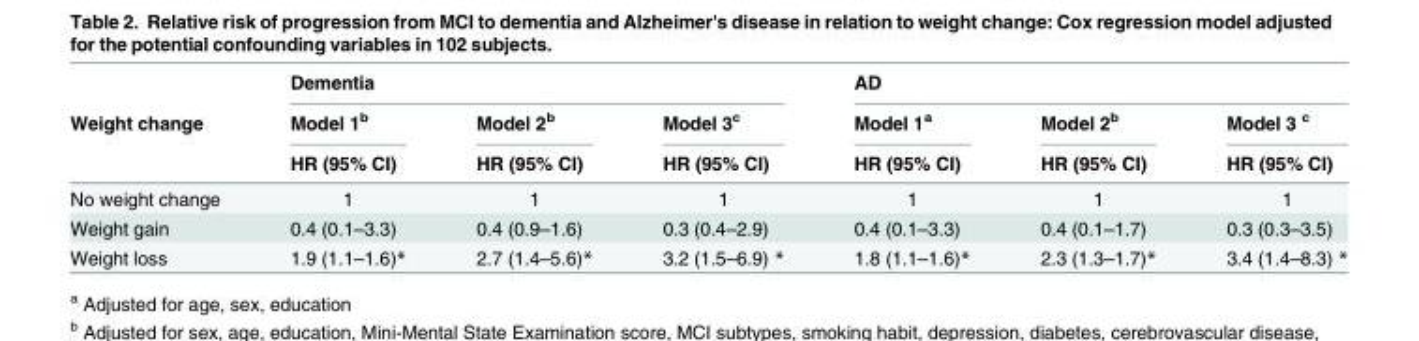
<table><thead><tr><td rowspan="3">Weight change</td><td colspan="3">Dementia</td><td colspan="3">AD</td></tr><tr><td rowspan="2">Model 1<sup>b</sup> HR (95% CI)</td><td rowspan="2">Model 2<sup>b</sup> HR (95% CI)</td><td rowspan="2">Model 3<sup>c</sup> HR (95% CI)</td><td rowspan="2">Model 1<sup>a</sup> HR (95% CI)</td><td rowspan="2">Model 2<sup>b</sup> HR (95% CI)</td><td rowspan="2">Model 3 <sup>c</sup> HR (95% CI)</td></tr><tr></tr></thead><tbody><tr><td>No weight change</td><td>1</td><td>1</td><td>1</td><td>1</td><td>1</td><td>1</td></tr><tr><td>Weight gain</td><td>0.4 (0.1–3.3)</td><td>0.4 (0.9–1.6)</td><td>0.3 (0.4–2.9)</td><td>0.4 (0.1–3.3)</td><td>0.4 (0.1–1.7)</td><td>0.3 (0.3–3.5)</td></tr><tr><td>Weight loss</td><td>1.9 (1.1–1.6)*</td><td>2.7 (1.4–5.6)*</td><td>3.2 (1.5–6.9) *</td><td>1.8 (1.1–1.6)*</td><td>2.3 (1.3–1.7)*</td><td>3.4 (1.4–8.3) *</td></tr></tbody></table>